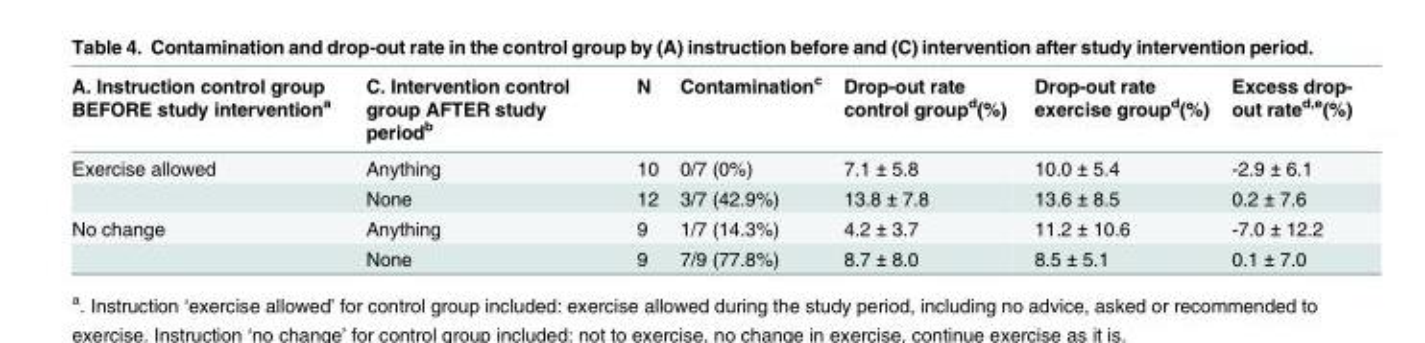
<table><thead><tr><td>A. Instruction control group BEFORE study intervention<sup>a</sup></td><td>C. Intervention control group AFTER study period<sup>b</sup></td><td>N</td><td>Contamination<sup>c</sup></td><td>Drop-out rate control group<sup>d</sup>(%)</td><td>Drop-out rate exercise group<sup>d</sup>(%)</td><td>Excess drop- out rate<sup>d,e</sup>(%)</td></tr></thead><tbody><tr><td rowspan="2">Exercise allowed</td><td>Anything</td><td>10</td><td>0/7 (0%)</td><td>7.1 ± 5.8</td><td>10.0 ± 5.4</td><td>-2.9 ± 6.1</td></tr><tr><td>None</td><td>12</td><td>3/7 (42.9%)</td><td>13.8 ± 7.8</td><td>13.6 ± 8.5</td><td>0.2 ± 7.6</td></tr><tr><td rowspan="2">No change</td><td>Anything</td><td>9</td><td>1/7 (14.3%)</td><td>4.2 ± 3.7</td><td>11.2 ± 10.6</td><td>-7.0 ± 12.2</td></tr><tr><td>None</td><td>9</td><td>7/9 (77.8%)</td><td>8.7 ± 8.0</td><td>8.5 ± 5.1</td><td>0.1 ± 7.0</td></tr></tbody></table>